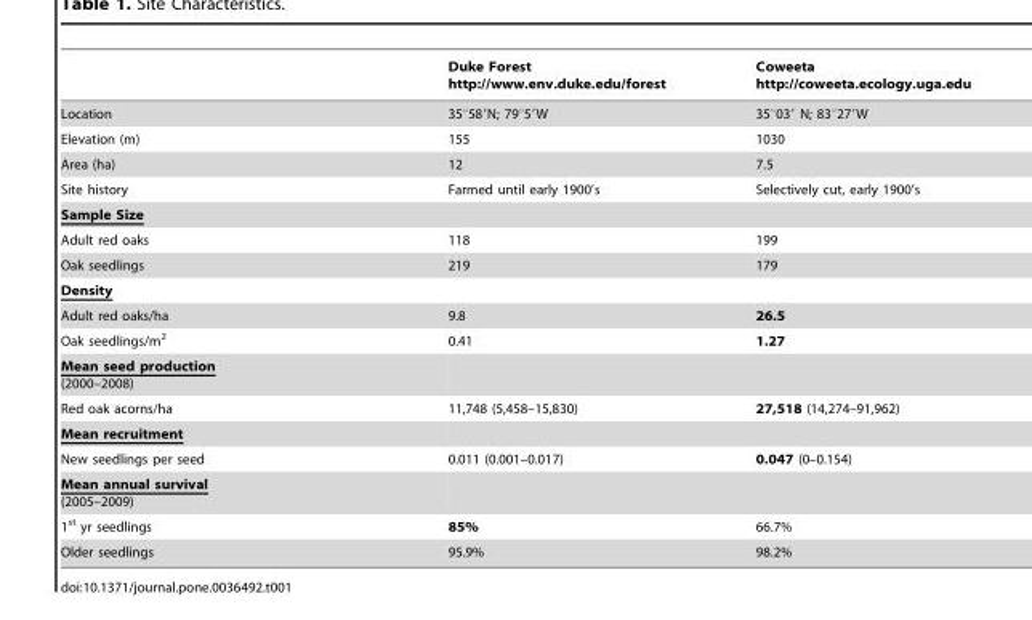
<table><thead><tr><td></td><td>Duke Forest http://www.env.duke.edu/forest</td><td>Coweeta http://coweeta.ecology.uga.edu</td></tr></thead><tbody><tr><td>Location</td><td>35°58′N; 79°5′W</td><td>35°03′ N; 83°27′W</td></tr><tr><td>Elevation (m)</td><td>155</td><td>1030</td></tr><tr><td>Area (ha)</td><td>12</td><td>7.5</td></tr><tr><td>Site history</td><td>Farmed until early 1900’s</td><td>Selectively cut, early 1900’s</td></tr><tr><td colspan="3">Sample Size</td></tr><tr><td>Adult red oaks</td><td>118</td><td>199</td></tr><tr><td>Oak seedlings</td><td>219</td><td>179</td></tr><tr><td colspan="3">Density</td></tr><tr><td>Adult red oaks/ha</td><td>9.8</td><td>26.5</td></tr><tr><td>Oak seedlings/m<sup>2</sup></td><td>0.41</td><td>1.27</td></tr><tr><td colspan="3">Mean seed production (2000–2008)</td></tr><tr><td>Red oak acorns/ha</td><td>11,748 (5,458–15,830)</td><td>27,518 (14,274–91,962)</td></tr><tr><td colspan="3">Mean recruitment</td></tr><tr><td>New seedlings per seed</td><td>0.011 (0.001–0.017)</td><td>0.047 (0–0.154)</td></tr><tr><td colspan="3">Mean annual survival (2005–2009)</td></tr><tr><td>1<sup>st</sup> yr seedlings</td><td>85%</td><td>66.7%</td></tr><tr><td>Older seedlings</td><td>95.9%</td><td>98.2%</td></tr></tbody></table>